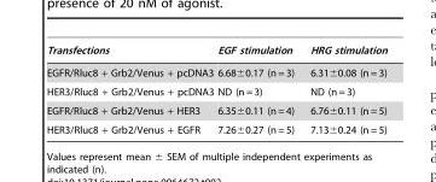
<table><thead><tr><td>Transfections</td><td>EGF stimulation</td><td>HRG stimulation</td></tr></thead><tbody><tr><td>EGFR/Rluc8 + Grb2/Venus + pcDNA3</td><td>6.68±0.17 (n = 3)</td><td>6.31±0.08 (n = 3)</td></tr><tr><td>HER3/Rluc8 + Grb2/Venus + pcDNA3</td><td>ND (n = 3)</td><td>ND (n = 3)</td></tr><tr><td>EGFR/Rluc8 + Grb2/Venus + HER3</td><td>6.35±0.11 (n = 4)</td><td>6.76±0.11 (n = 5)</td></tr><tr><td>HER3/Rluc8 + Grb2/Venus + EGFR</td><td>7.26±0.27 (n = 5)</td><td>7.13±0.24 (n = 5)</td></tr></tbody></table>